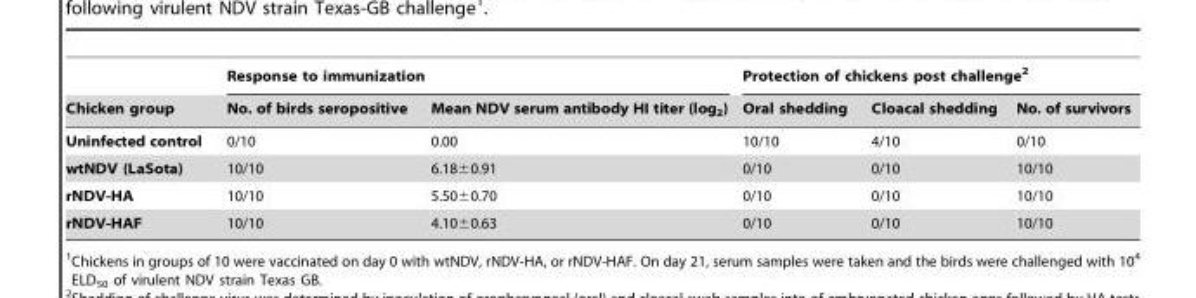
<table><thead><tr><td rowspan="2">Chicken group</td><td colspan="2">Response to immunization</td><td colspan="3">Protection of chickens post challenge<sup>2</sup></td></tr><tr><td>No. of birds seropositive</td><td>Mean NDV serum antibody HI titer (log<sub>2</sub>)</td><td>Oral shedding</td><td>Cloacal shedding</td><td>No. of survivors</td></tr></thead><tbody><tr><td>Uninfected control</td><td>0/10</td><td>0.00</td><td>10/10</td><td>4/10</td><td>0/10</td></tr><tr><td>wtNDV (LaSota)</td><td>10/10</td><td>6.18±0.91</td><td>0/10</td><td>0/10</td><td>10/10</td></tr><tr><td>rNDV-HA</td><td>10/10</td><td>5.50±0.70</td><td>0/10</td><td>0/10</td><td>10/10</td></tr><tr><td>rNDV-HAF</td><td>10/10</td><td>4.10±0.63</td><td>0/10</td><td>0/10</td><td>10/10</td></tr></tbody></table>